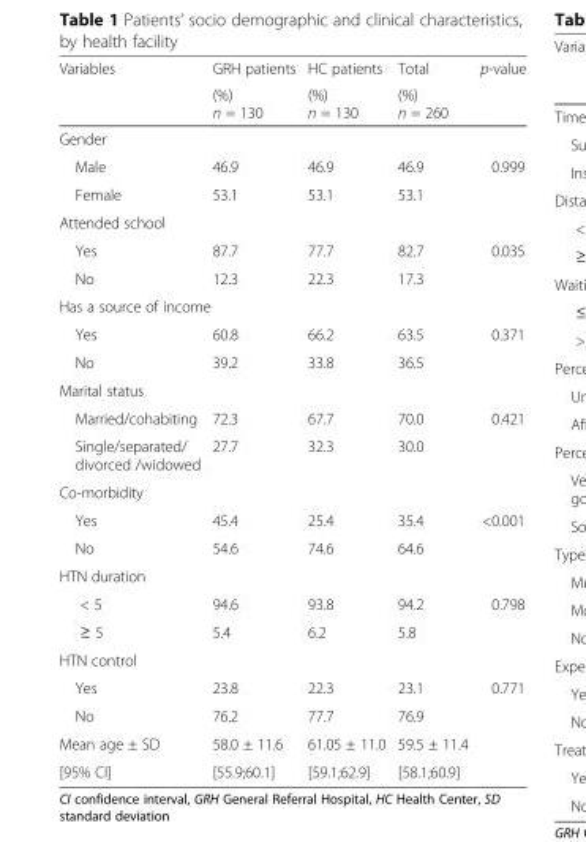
<table><thead><tr><td rowspan="2">Variables</td><td rowspan="2">GRH patients (%) n = 130</td><td rowspan="2">HC patients (%) n = 130</td><td rowspan="2">Total (%) n = 260</td><td rowspan="2">p-value</td></tr><tr></tr></thead><tbody><tr><td colspan="5">Gender</td></tr><tr><td>Male</td><td>46.9</td><td>46.9</td><td>46.9</td><td>0.999</td></tr><tr><td>Female</td><td>53.1</td><td>53.1</td><td>53.1</td><td></td></tr><tr><td colspan="5">Attended school</td></tr><tr><td>Yes</td><td>87.7</td><td>77.7</td><td>82.7</td><td>0.035</td></tr><tr><td>No</td><td>12.3</td><td>22.3</td><td>17.3</td><td></td></tr><tr><td colspan="5">Has a source of income</td></tr><tr><td>Yes</td><td>60.8</td><td>66.2</td><td>63.5</td><td>0.371</td></tr><tr><td>No</td><td>39.2</td><td>33.8</td><td>36.5</td><td></td></tr><tr><td colspan="5">Marital status</td></tr><tr><td>Married/cohabiting</td><td>72.3</td><td>67.7</td><td>70.0</td><td>0.421</td></tr><tr><td>Single/separated/ divorced /widowed</td><td>27.7</td><td>32.3</td><td>30.0</td><td></td></tr><tr><td colspan="5">Co-morbidity</td></tr><tr><td>Yes</td><td>45.4</td><td>25.4</td><td>35.4</td><td>&lt;0.001</td></tr><tr><td>No</td><td>54.6</td><td>74.6</td><td>64.6</td><td></td></tr><tr><td colspan="5">HTN duration</td></tr><tr><td>&lt; 5</td><td>94.6</td><td>93.8</td><td>94.2</td><td>0.798</td></tr><tr><td>≥ 5</td><td>5.4</td><td>6.2</td><td>5.8</td><td></td></tr><tr><td colspan="5">HTN control</td></tr><tr><td>Yes</td><td>23.8</td><td>22.3</td><td>23.1</td><td>0.771</td></tr><tr><td>No</td><td>76.2</td><td>77.7</td><td>76.9</td><td></td></tr><tr><td>Mean age ± SD</td><td>58.0 ± 11.6</td><td>61.05 ± 11.0</td><td>59.5 ± 11.4</td><td></td></tr><tr><td>[95% CI]</td><td>[55.9;60.1]</td><td>[59.1;62.9]</td><td>[58.1;60.9]</td><td></td></tr></tbody></table>